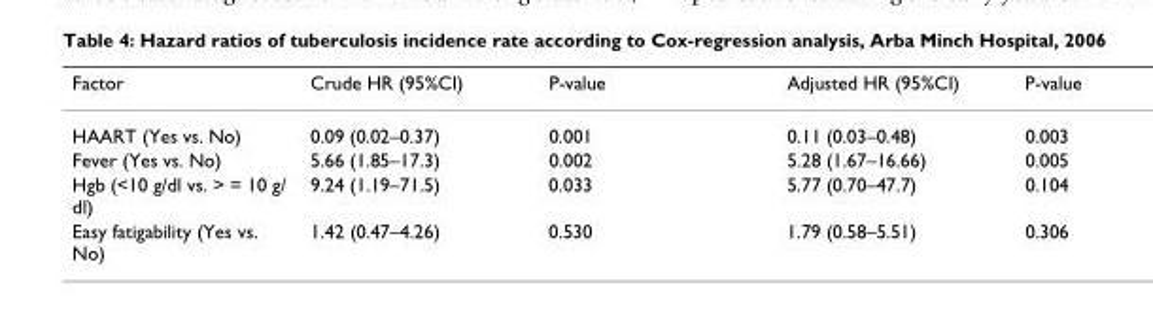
<table><thead><tr><td>Factor</td><td>Crude HR (95%CI)</td><td>P-value</td><td>Adjusted HR (95%CI)</td><td>P-value</td></tr></thead><tbody><tr><td>HAART (Yes vs. No)</td><td>0.09 (0.02–0.37)</td><td>0.001</td><td>0.11 (0.03–0.48)</td><td>0.003</td></tr><tr><td>Fever (Yes vs. No)</td><td>5.66 (1.85–17.3)</td><td>0.002</td><td>5.28 (1.67–16.66)</td><td>0.005</td></tr><tr><td>Hgb (&lt;10 g/dl vs. &gt; = 10 g/ dl)</td><td>9.24 (1.19–71.5)</td><td>0.033</td><td>5.77 (0.70–47.7)</td><td>0.104</td></tr><tr><td>Easy fatigability (Yes vs. No)</td><td>1.42 (0.47–4.26)</td><td>0.530</td><td>1.79 (0.58–5.51)</td><td>0.306</td></tr></tbody></table>